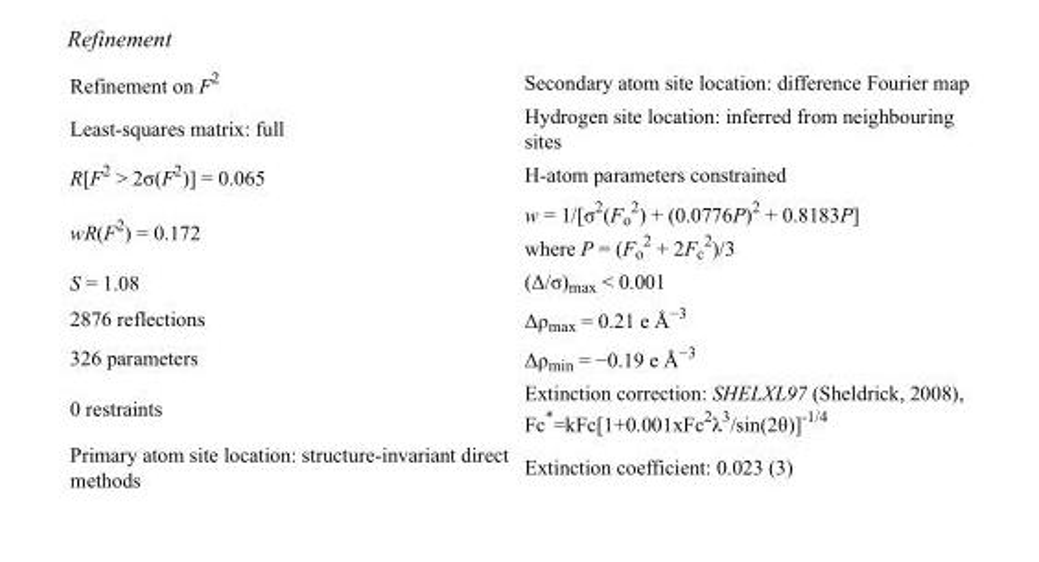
<table><tbody><tr><td>Refinement on F<sup>2</sup></td><td>Secondary atom site location: difference Fourier map</td></tr><tr><td>Least-squares matrix: full</td><td>Hydrogen site location: inferred from neighbouring sites</td></tr><tr><td>R[F<sup>2</sup> &gt; 2σ(F<sup>2</sup>)] = 0.065</td><td>H-atom parameters constrained</td></tr><tr><td>wR(F<sup>2</sup>) = 0.172</td><td>w = 1/[σ<sup>2</sup>(F<sub>o</sub> <sup>2</sup>) + (0.0776P)<sup>2</sup> + 0.8183P] where P = (F<sub>o</sub> <sup>2</sup> + 2F<sub>c</sub> <sup>2</sup>)/3</td></tr><tr><td>S = 1.08</td><td>(Δ/σ)<sub>max</sub> &lt; 0.001</td></tr><tr><td>2876 reflections</td><td>Δρ<sub>max</sub> = 0.21 e Å<sup>−3</sup></td></tr><tr><td>326 parameters</td><td>Δρ<sub>min</sub> = −0.19 e Å<sup>−3</sup></td></tr><tr><td>0 restraints</td><td>Extinction correction: SHELXL97 (Sheldrick, 2008), Fc*=kFc[1+0.001xFc<sup>2</sup>λ<sup>3</sup>/sin(2θ)]<sup>-1/4</sup></td></tr><tr><td>Primary atom site location: structure-invariant direct methods</td><td>Extinction coefficient: 0.023 (3)</td></tr></tbody></table>